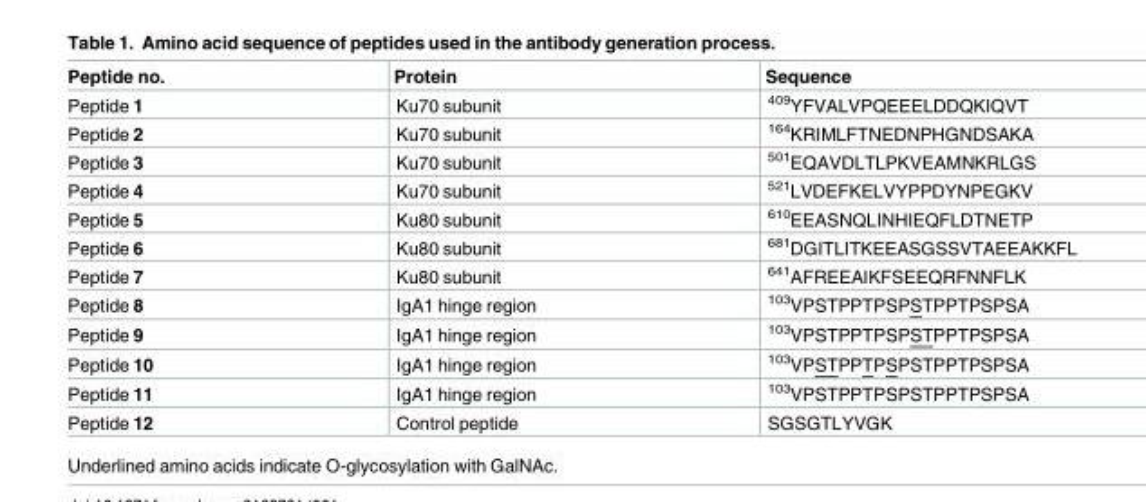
<table><thead><tr><td>Peptide no.</td><td>Protein</td><td>Sequence</td></tr></thead><tbody><tr><td>Peptide 1</td><td>Ku70 subunit</td><td><sup>409</sup>YFVALVPQEEELDDQKIQVT</td></tr><tr><td>Peptide 2</td><td>Ku70 subunit</td><td><sup>164</sup>KRIMLFTNEDNPHGNDSAKA</td></tr><tr><td>Peptide 3</td><td>Ku70 subunit</td><td><sup>501</sup>EQAVDLTLPKVEAMNKRLGS</td></tr><tr><td>Peptide 4</td><td>Ku70 subunit</td><td><sup>521</sup>LVDEFKELVYPPDYNPEGKV</td></tr><tr><td>Peptide 5</td><td>Ku80 subunit</td><td><sup>610</sup>EEASNQLINHIEQFLDTNETP</td></tr><tr><td>Peptide 6</td><td>Ku80 subunit</td><td><sup>681</sup>DGITLITKEEASGSSVTAEEAKKFL</td></tr><tr><td>Peptide 7</td><td>Ku80 subunit</td><td><sup>641</sup>AFREEAIKFSEEQRFNNFLK</td></tr><tr><td>Peptide 8</td><td>IgA1 hinge region</td><td><sup>103</sup>VPSTPPTPSPSTPPTPSPSA</td></tr><tr><td>Peptide 9</td><td>IgA1 hinge region</td><td><sup>103</sup>VPSTPPTPSPSTPPTPSPSA</td></tr><tr><td>Peptide 10</td><td>IgA1 hinge region</td><td><sup>103</sup>VPSTPPTPSPSTPPTPSPSA</td></tr><tr><td>Peptide 11</td><td>IgA1 hinge region</td><td><sup>103</sup>VPSTPPTPSPSTPPTPSPSA</td></tr><tr><td>Peptide 12</td><td>Control peptide</td><td>SGSGTLYVGK</td></tr></tbody></table>